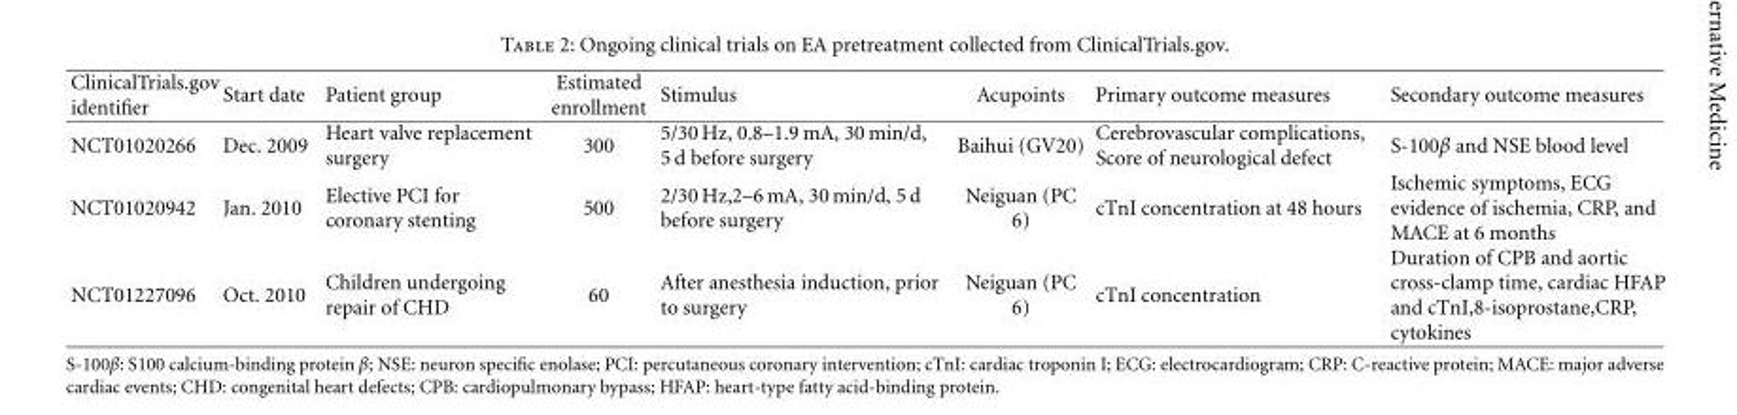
<table><thead><tr><td>ClinicalTrials.gov identifier</td><td>Start date</td><td>Patient group</td><td>Estimated enrollment</td><td>Stimulus</td><td>Acupoints</td><td>Primary outcome measures</td><td>Secondary outcome measures</td></tr></thead><tbody><tr><td>NCT01020266</td><td>Dec. 2009</td><td>Heart valve replacement surgery</td><td>300</td><td>5/30 Hz, 0.8–1.9 mA, 30 min/d, 5 d before surgery</td><td>Baihui (GV20)</td><td>Cerebrovascular complications, Score of neurological defect</td><td>S-100β and NSE blood level</td></tr><tr><td>NCT01020942</td><td>Jan. 2010</td><td>Elective PCI for coronary stenting</td><td>500</td><td>2/30 Hz,2–6 mA, 30 min/d, 5 d before surgery</td><td>Neiguan (PC 6)</td><td>cTnI concentration at 48 hours</td><td>Ischemic symptoms, ECG evidence of ischemia, CRP, and MACE at 6 months</td></tr><tr><td>NCT01227096</td><td>Oct. 2010</td><td>Children undergoing repair of CHD</td><td>60</td><td>After anesthesia induction, prior to surgery</td><td>Neiguan (PC 6)</td><td>cTnI concentration</td><td>Duration of CPB and aortic cross-clamp time, cardiac HFAP and cTnI,8-isoprostane,CRP, cytokines</td></tr></tbody></table>